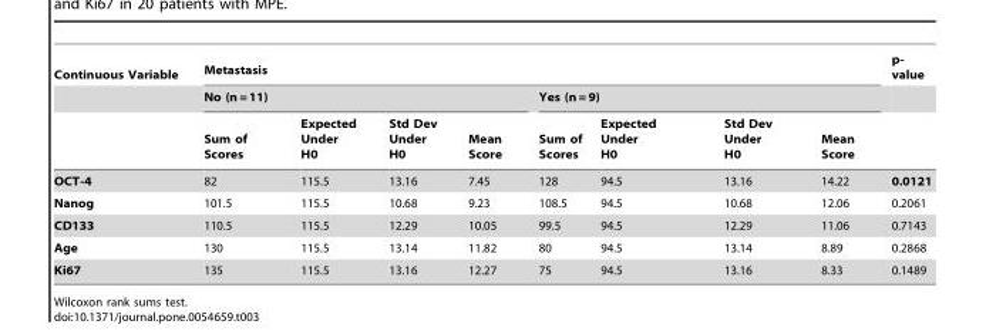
<table><thead><tr><td rowspan="3">Continuous Variable</td><td colspan="8">Metastasis</td><td rowspan="3">p- value</td></tr><tr><td colspan="4">No (n = 11)</td><td colspan="4">Yes (n = 9)</td></tr><tr><td>Sum of Scores</td><td>Expected Under H0</td><td>Std Dev Under H0</td><td>Mean Score</td><td>Sum of Scores</td><td>Expected Under H0</td><td>Std Dev Under H0</td><td>Mean Score</td></tr></thead><tbody><tr><td>OCT-4</td><td>82</td><td>115.5</td><td>13.16</td><td>7.45</td><td>128</td><td>94.5</td><td>13.16</td><td>14.22</td><td>0.0121</td></tr><tr><td>Nanog</td><td>101.5</td><td>115.5</td><td>10.68</td><td>9.23</td><td>108.5</td><td>94.5</td><td>10.68</td><td>12.06</td><td>0.2061</td></tr><tr><td>CD133</td><td>110.5</td><td>115.5</td><td>12.29</td><td>10.05</td><td>99.5</td><td>94.5</td><td>12.29</td><td>11.06</td><td>0.7143</td></tr><tr><td>Age</td><td>130</td><td>115.5</td><td>13.14</td><td>11.82</td><td>80</td><td>94.5</td><td>13.14</td><td>8.89</td><td>0.2868</td></tr><tr><td>Ki67</td><td>135</td><td>115.5</td><td>13.16</td><td>12.27</td><td>75</td><td>94.5</td><td>13.16</td><td>8.33</td><td>0.1489</td></tr></tbody></table>